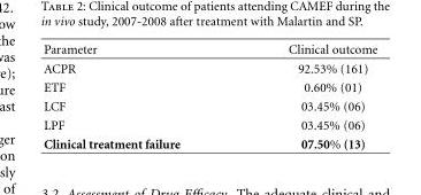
<table><thead><tr><td>Parameter</td><td>Clinical outcome</td></tr></thead><tbody><tr><td>ACPR</td><td>92.53% (161)</td></tr><tr><td>ETF</td><td>0.60% (01)</td></tr><tr><td>LCF</td><td>03.45% (06)</td></tr><tr><td>LPF</td><td>03.45% (06)</td></tr><tr><td>Clinical treatment failure</td><td>07.50% (13)</td></tr></tbody></table>